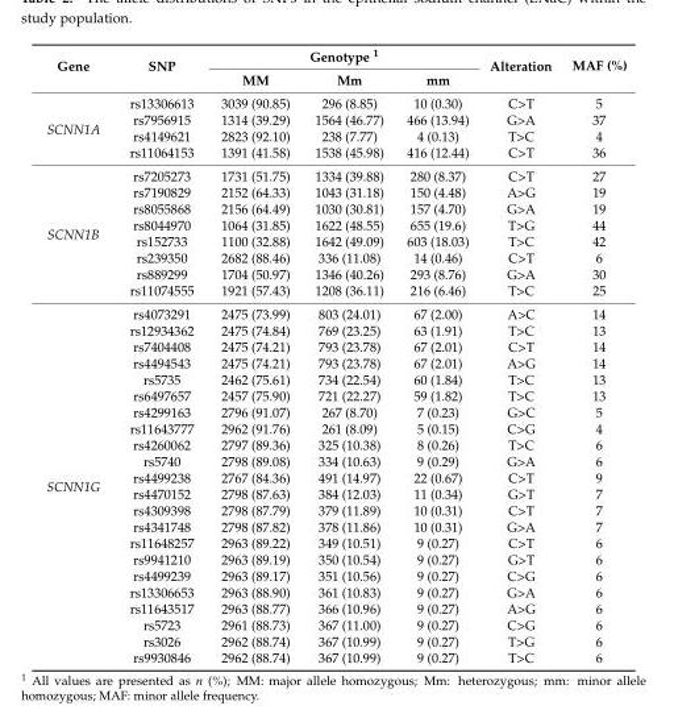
<table><thead><tr><td rowspan="2">Gene</td><td rowspan="2">SNP</td><td colspan="3">Genotype <sup>1</sup></td><td rowspan="2">Alteration</td><td rowspan="2">MAF (%)</td></tr><tr><td>MM</td><td>Mm</td><td>mm</td></tr></thead><tbody><tr><td rowspan="4">SCNN1A</td><td>rs13306613</td><td>3039 (90.85)</td><td>296 (8.85)</td><td>10 (0.30)</td><td>C&gt;T</td><td>5</td></tr><tr><td>rs7956915</td><td>1314 (39.29)</td><td>1564 (46.77)</td><td>466 (13.94)</td><td>G&gt;A</td><td>37</td></tr><tr><td>rs4149621</td><td>2823 (92.10)</td><td>238 (7.77)</td><td>4 (0.13)</td><td>T&gt;C</td><td>4</td></tr><tr><td>rs11064153</td><td>1391 (41.58)</td><td>1538 (45.98)</td><td>416 (12.44)</td><td>C&gt;T</td><td>36</td></tr><tr><td rowspan="8">SCNN1B</td><td>rs7205273</td><td>1731 (51.75)</td><td>1334 (39.88)</td><td>280 (8.37)</td><td>C&gt;T</td><td>27</td></tr><tr><td>rs7190829</td><td>2152 (64.33)</td><td>1043 (31.18)</td><td>150 (4.48)</td><td>A&gt;G</td><td>19</td></tr><tr><td>rs8055868</td><td>2156 (64.49)</td><td>1030 (30.81)</td><td>157 (4.70)</td><td>G&gt;A</td><td>19</td></tr><tr><td>rs8044970</td><td>1064 (31.85)</td><td>1622 (48.55)</td><td>655 (19.6)</td><td>T&gt;G</td><td>44</td></tr><tr><td>rs152733</td><td>1100 (32.88)</td><td>1642 (49.09)</td><td>603 (18.03)</td><td>T&gt;C</td><td>42</td></tr><tr><td>rs239350</td><td>2682 (88.46)</td><td>336 (11.08)</td><td>14 (0.46)</td><td>C&gt;T</td><td>6</td></tr><tr><td>rs889299</td><td>1704 (50.97)</td><td>1346 (40.26)</td><td>293 (8.76)</td><td>G&gt;A</td><td>30</td></tr><tr><td>rs11074555</td><td>1921 (57.43)</td><td>1208 (36.11)</td><td>216 (6.46)</td><td>T&gt;C</td><td>25</td></tr><tr><td rowspan="22">SCNN1G</td><td>rs4073291</td><td>2475 (73.99)</td><td>803 (24.01)</td><td>67 (2.00)</td><td>A&gt;C</td><td>14</td></tr><tr><td>rs12934362</td><td>2475 (74.84)</td><td>769 (23.25)</td><td>63 (1.91)</td><td>T&gt;C</td><td>13</td></tr><tr><td>rs7404408</td><td>2475 (74.21)</td><td>793 (23.78)</td><td>67 (2.01)</td><td>C&gt;T</td><td>14</td></tr><tr><td>rs4494543</td><td>2475 (74.21)</td><td>793 (23.78)</td><td>67 (2.01)</td><td>A&gt;G</td><td>14</td></tr><tr><td>rs5735</td><td>2462 (75.61)</td><td>734 (22.54)</td><td>60 (1.84)</td><td>T&gt;C</td><td>13</td></tr><tr><td>rs6497657</td><td>2457 (75.90)</td><td>721 (22.27)</td><td>59 (1.82)</td><td>T&gt;C</td><td>13</td></tr><tr><td>rs4299163</td><td>2796 (91.07)</td><td>267 (8.70)</td><td>7 (0.23)</td><td>G&gt;C</td><td>5</td></tr><tr><td>rs11643777</td><td>2962 (91.76)</td><td>261 (8.09)</td><td>5 (0.15)</td><td>C&gt;G</td><td>4</td></tr><tr><td>rs4260062</td><td>2797 (89.36)</td><td>325 (10.38)</td><td>8 (0.26)</td><td>T&gt;C</td><td>6</td></tr><tr><td>rs5740</td><td>2798 (89.08)</td><td>334 (10.63)</td><td>9 (0.29)</td><td>G&gt;A</td><td>6</td></tr><tr><td>rs4499238</td><td>2767 (84.36)</td><td>491 (14.97)</td><td>22 (0.67)</td><td>C&gt;T</td><td>9</td></tr><tr><td>rs4470152</td><td>2798 (87.63)</td><td>384 (12.03)</td><td>11 (0.34)</td><td>G&gt;T</td><td>7</td></tr><tr><td>rs4309398</td><td>2798 (87.79)</td><td>379 (11.89)</td><td>10 (0.31)</td><td>C&gt;T</td><td>7</td></tr><tr><td>rs4341748</td><td>2798 (87.82)</td><td>378 (11.86)</td><td>10 (0.31)</td><td>G&gt;A</td><td>7</td></tr><tr><td>rs11648257</td><td>2963 (89.22)</td><td>349 (10.51)</td><td>9 (0.27)</td><td>C&gt;T</td><td>6</td></tr><tr><td>rs9941210</td><td>2963 (89.19)</td><td>350 (10.54)</td><td>9 (0.27)</td><td>G&gt;T</td><td>6</td></tr><tr><td>rs4499239</td><td>2963 (89.17)</td><td>351 (10.56)</td><td>9 (0.27)</td><td>C&gt;G</td><td>6</td></tr><tr><td>rs13306653</td><td>2963 (88.90)</td><td>361 (10.83)</td><td>9 (0.27)</td><td>G&gt;A</td><td>6</td></tr><tr><td>rs11643517</td><td>2963 (88.77)</td><td>366 (10.96)</td><td>9 (0.27)</td><td>A&gt;G</td><td>6</td></tr><tr><td>rs5723</td><td>2961 (88.73)</td><td>367 (11.00)</td><td>9 (0.27)</td><td>C&gt;G</td><td>6</td></tr><tr><td>rs3026</td><td>2962 (88.74)</td><td>367 (10.99)</td><td>9 (0.27)</td><td>T&gt;G</td><td>6</td></tr><tr><td>rs9930846</td><td>2962 (88.74)</td><td>367 (10.99)</td><td>9 (0.27)</td><td>T&gt;C</td><td>6</td></tr></tbody></table>